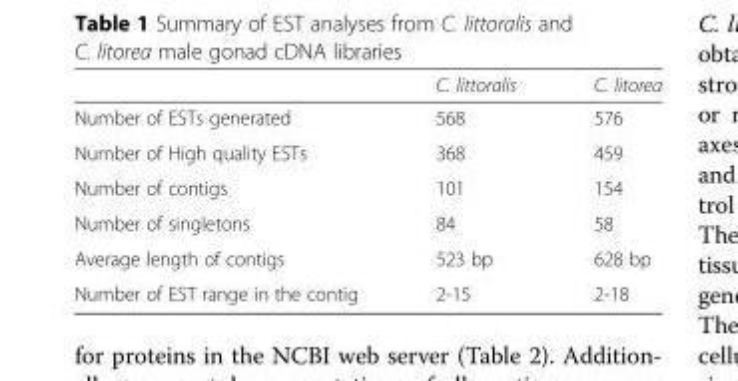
<table><thead><tr><td></td><td>C. littoralis</td><td>C. litorea</td></tr></thead><tbody><tr><td>Number of ESTs generated</td><td>568</td><td>576</td></tr><tr><td>Number of High quality ESTs</td><td>368</td><td>459</td></tr><tr><td>Number of contigs</td><td>101</td><td>154</td></tr><tr><td>Number of singletons</td><td>84</td><td>58</td></tr><tr><td>Average length of contigs</td><td>523 bp</td><td>628 bp</td></tr><tr><td>Number of EST range in the contig</td><td>2-15</td><td>2-18</td></tr></tbody></table>